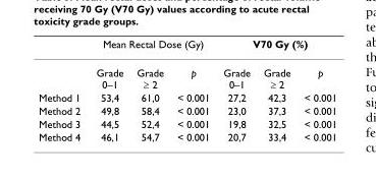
<table><thead><tr><td rowspan="2"></td><td colspan="3">Mean Rectal Dose (Gy)</td><td colspan="3">V70 Gy (%)</td></tr><tr><td>Grade 0–1</td><td>Grade ≥ 2</td><td>p</td><td>Grade 0–1</td><td>Grade ≥ 2</td><td>p</td></tr></thead><tbody><tr><td>Method 1</td><td>53,4</td><td>61,0</td><td>&lt; 0.001</td><td>27,2</td><td>42,3</td><td>&lt; 0.001</td></tr><tr><td>Method 2</td><td>49,8</td><td>58,4</td><td>&lt; 0.001</td><td>23,0</td><td>37,3</td><td>&lt; 0.001</td></tr><tr><td>Method 3</td><td>44,5</td><td>52,4</td><td>&lt; 0.001</td><td>19,8</td><td>32,5</td><td>&lt; 0.001</td></tr><tr><td>Method 4</td><td>46,1</td><td>54,7</td><td>&lt; 0.001</td><td>20,7</td><td>33,4</td><td>&lt; 0.001</td></tr></tbody></table>